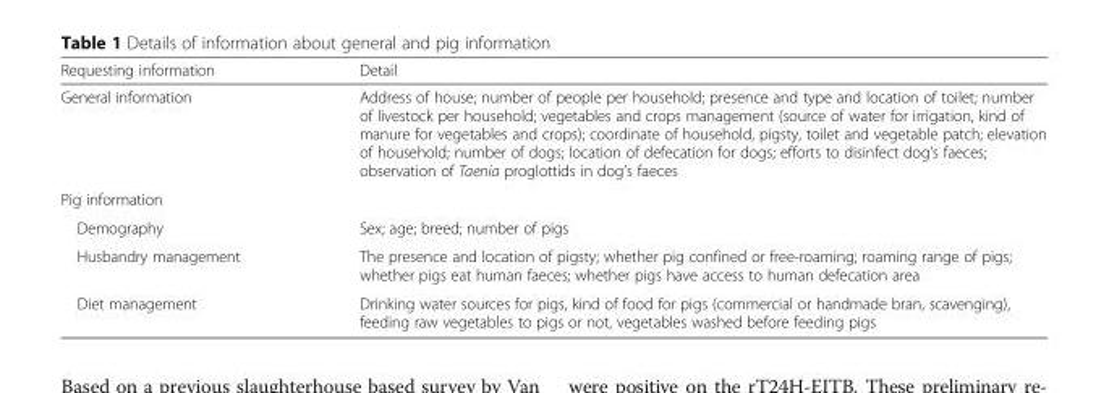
<table><thead><tr><td>Requesting information</td><td>Detail</td></tr></thead><tbody><tr><td>General information</td><td>Address of house; number of people per household; presence and type and location of toilet; number of livestock per household; vegetables and crops management (source of water for irrigation, kind of manure for vegetables and crops); coordinate of household, pigsty, toilet and vegetable patch; elevation of household; number of dogs; location of defecation for dogs; efforts to disinfect dog’s faeces; observation of Taenia proglottids in dog’s faeces</td></tr><tr><td colspan="2">Pig information</td></tr><tr><td>Demography</td><td>Sex; age; breed; number of pigs</td></tr><tr><td>Husbandry management</td><td>The presence and location of pigsty; whether pig confined or free-roaming; roaming range of pigs; whether pigs eat human faeces; whether pigs have access to human defecation area</td></tr><tr><td>Diet management</td><td>Drinking water sources for pigs, kind of food for pigs (commercial or handmade bran, scavenging), feeding raw vegetables to pigs or not, vegetables washed before feeding pigs</td></tr></tbody></table>